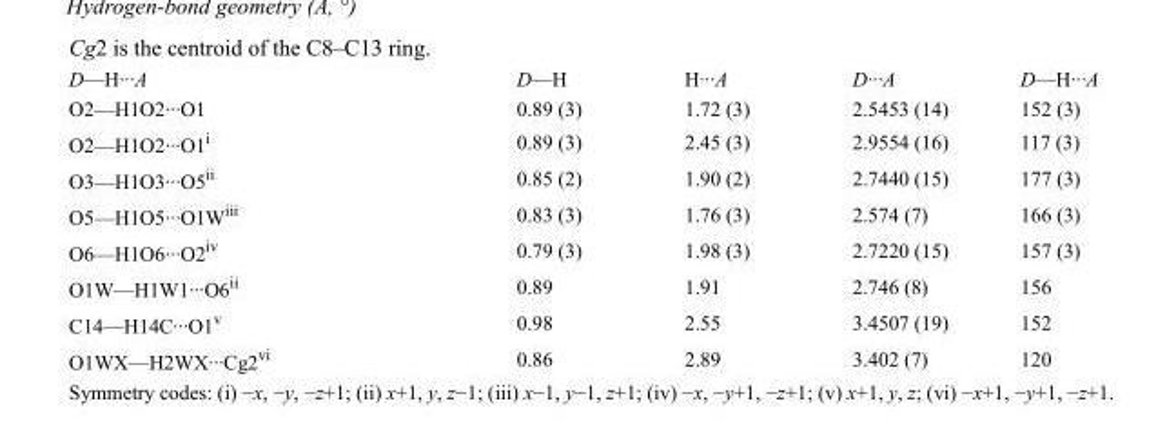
<table><tbody><tr><td>D—H···A</td><td>D—H</td><td>H···A</td><td>D···A</td><td>D—H···A</td></tr><tr><td>O2—H1O2···O1</td><td>0.89 (3)</td><td>1.72 (3)</td><td>2.5453 (14)</td><td>152 (3)</td></tr><tr><td>O2—H1O2···O1<sup>i</sup></td><td>0.89 (3)</td><td>2.45 (3)</td><td>2.9554 (16)</td><td>117 (3)</td></tr><tr><td>O3—H1O3···O5<sup>ii</sup></td><td>0.85 (2)</td><td>1.90 (2)</td><td>2.7440 (15)</td><td>177 (3)</td></tr><tr><td>O5—H1O5···O1W<sup>iii</sup></td><td>0.83 (3)</td><td>1.76 (3)</td><td>2.574 (7)</td><td>166 (3)</td></tr><tr><td>O6—H1O6···O2<sup>iv</sup></td><td>0.79 (3)</td><td>1.98 (3)</td><td>2.7220 (15)</td><td>157 (3)</td></tr><tr><td>O1W—H1W1···O6<sup>ii</sup></td><td>0.89</td><td>1.91</td><td>2.746 (8)</td><td>156</td></tr><tr><td>C14—H14C···O1<sup>v</sup></td><td>0.98</td><td>2.55</td><td>3.4507 (19)</td><td>152</td></tr><tr><td>O1WX—H2WX···Cg2<sup>vi</sup></td><td>0.86</td><td>2.89</td><td>3.402 (7)</td><td>120</td></tr></tbody></table>